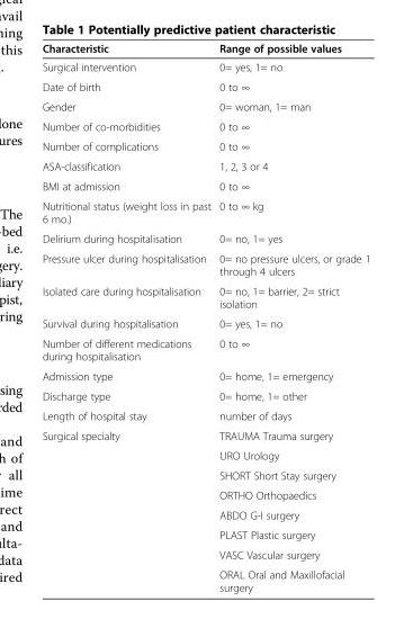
<table><thead><tr><td>Characteristic</td><td>Range of possible values</td></tr></thead><tbody><tr><td>Surgical intervention</td><td>0= yes, 1= no</td></tr><tr><td>Date of birth</td><td>0 to ∞</td></tr><tr><td>Gender</td><td>0= woman, 1= man</td></tr><tr><td>Number of co-morbidities</td><td>0 to ∞</td></tr><tr><td>Number of complications</td><td>0 to ∞</td></tr><tr><td>ASA-classification</td><td>1, 2, 3 or 4</td></tr><tr><td>BMI at admission</td><td>0 to ∞</td></tr><tr><td>Nutritional status (weight loss in past 6 mo.)</td><td>0 to ∞ kg</td></tr><tr><td>Delirium during hospitalisation</td><td>0= no, 1= yes</td></tr><tr><td>Pressure ulcer during hospitalisation</td><td>0= no pressure ulcers, or grade 1 through 4 ulcers</td></tr><tr><td>Isolated care during hospitalisation</td><td>0= no, 1= barrier, 2= strict isolation</td></tr><tr><td>Survival during hospitalisation</td><td>0= yes, 1= no</td></tr><tr><td>Number of different medications during hospitalisation</td><td>0 to ∞</td></tr><tr><td>Admission type</td><td>0= home, 1= emergency</td></tr><tr><td>Discharge type</td><td>0= home, 1= other</td></tr><tr><td>Length of hospital stay</td><td>number of days</td></tr><tr><td rowspan="8">Surgical specialty</td><td>TRAUMA Trauma surgery</td></tr><tr><td>URO Urology</td></tr><tr><td>SHORT Short Stay surgery</td></tr><tr><td>ORTHO Orthopaedics</td></tr><tr><td>ABDO G-I surgery</td></tr><tr><td>PLAST Plastic surgery</td></tr><tr><td>VASC Vascular surgery</td></tr><tr><td>ORAL Oral and Maxillofacial surgery</td></tr></tbody></table>